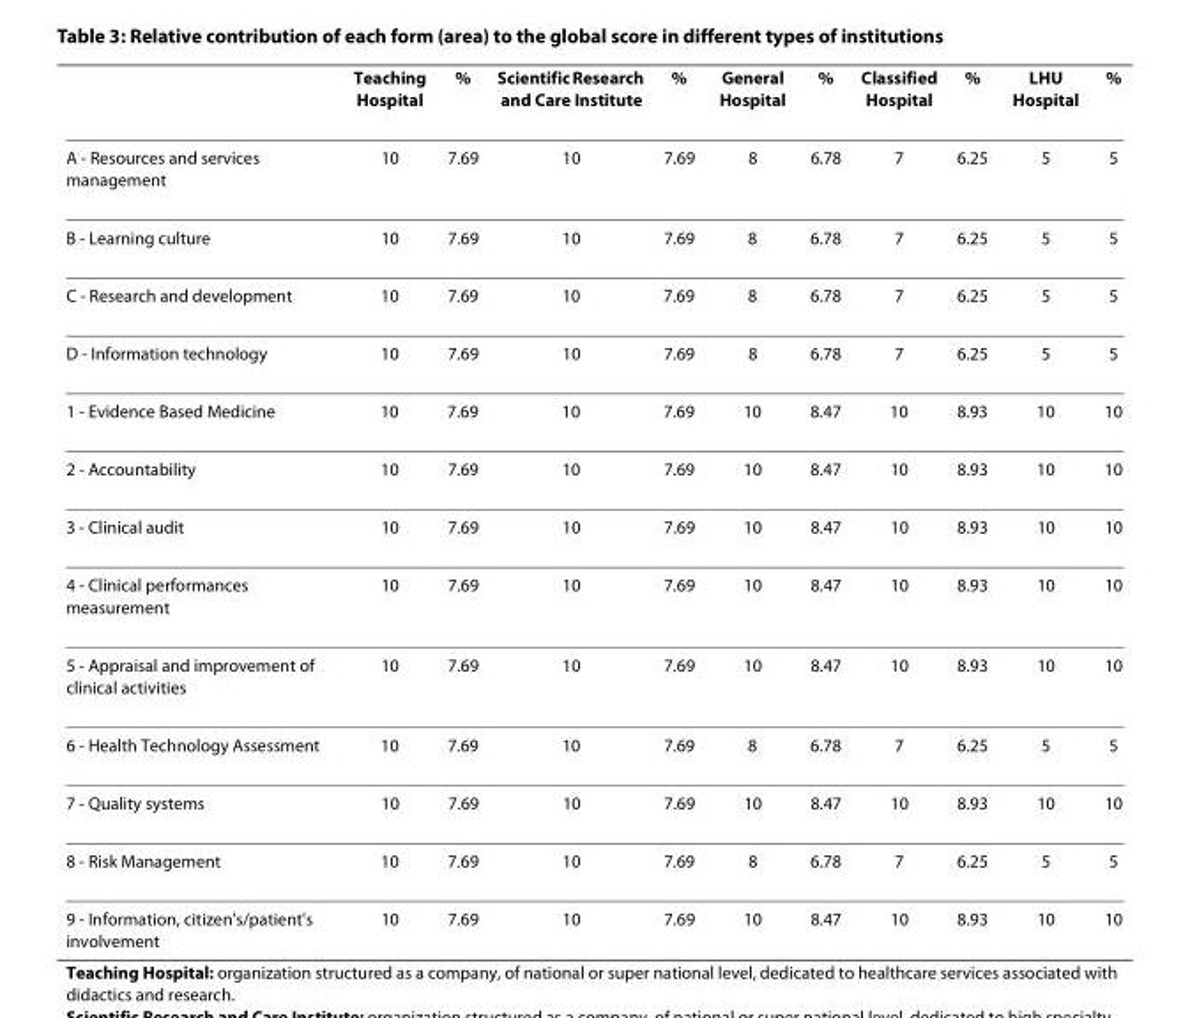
<table><thead><tr><td></td><td>Teaching Hospital</td><td>%</td><td>Scientific Research and Care Institute</td><td>%</td><td>General Hospital</td><td>%</td><td>Classified Hospital</td><td>%</td><td>LHU Hospital</td><td>%</td></tr></thead><tbody><tr><td>A - Resources and services management</td><td>10</td><td>7.69</td><td>10</td><td>7.69</td><td>8</td><td>6.78</td><td>7</td><td>6.25</td><td>5</td><td>5</td></tr><tr><td>B - Learning culture</td><td>10</td><td>7.69</td><td>10</td><td>7.69</td><td>8</td><td>6.78</td><td>7</td><td>6.25</td><td>5</td><td>5</td></tr><tr><td>C - Research and development</td><td>10</td><td>7.69</td><td>10</td><td>7.69</td><td>8</td><td>6.78</td><td>7</td><td>6.25</td><td>5</td><td>5</td></tr><tr><td>D - Information technology</td><td>10</td><td>7.69</td><td>10</td><td>7.69</td><td>8</td><td>6.78</td><td>7</td><td>6.25</td><td>5</td><td>5</td></tr><tr><td>1 - Evidence Based Medicine</td><td>10</td><td>7.69</td><td>10</td><td>7.69</td><td>10</td><td>8.47</td><td>10</td><td>8.93</td><td>10</td><td>10</td></tr><tr><td>2 - Accountability</td><td>10</td><td>7.69</td><td>10</td><td>7.69</td><td>10</td><td>8.47</td><td>10</td><td>8.93</td><td>10</td><td>10</td></tr><tr><td>3 - Clinical audit</td><td>10</td><td>7.69</td><td>10</td><td>7.69</td><td>10</td><td>8.47</td><td>10</td><td>8.93</td><td>10</td><td>10</td></tr><tr><td>4 - Clinical performances measurement</td><td>10</td><td>7.69</td><td>10</td><td>7.69</td><td>10</td><td>8.47</td><td>10</td><td>8.93</td><td>10</td><td>10</td></tr><tr><td>5 - Appraisal and improvement of clinical activities</td><td>10</td><td>7.69</td><td>10</td><td>7.69</td><td>10</td><td>8.47</td><td>10</td><td>8.93</td><td>10</td><td>10</td></tr><tr><td>6 - Health Technology Assessment</td><td>10</td><td>7.69</td><td>10</td><td>7.69</td><td>8</td><td>6.78</td><td>7</td><td>6.25</td><td>5</td><td>5</td></tr><tr><td>7 - Quality systems</td><td>10</td><td>7.69</td><td>10</td><td>7.69</td><td>10</td><td>8.47</td><td>10</td><td>8.93</td><td>10</td><td>10</td></tr><tr><td>8 - Risk Management</td><td>10</td><td>7.69</td><td>10</td><td>7.69</td><td>8</td><td>6.78</td><td>7</td><td>6.25</td><td>5</td><td>5</td></tr><tr><td>9 - Information, citizen&#x27;s/patient&#x27;s involvement</td><td>10</td><td>7.69</td><td>10</td><td>7.69</td><td>10</td><td>8.47</td><td>10</td><td>8.93</td><td>10</td><td>10</td></tr></tbody></table>